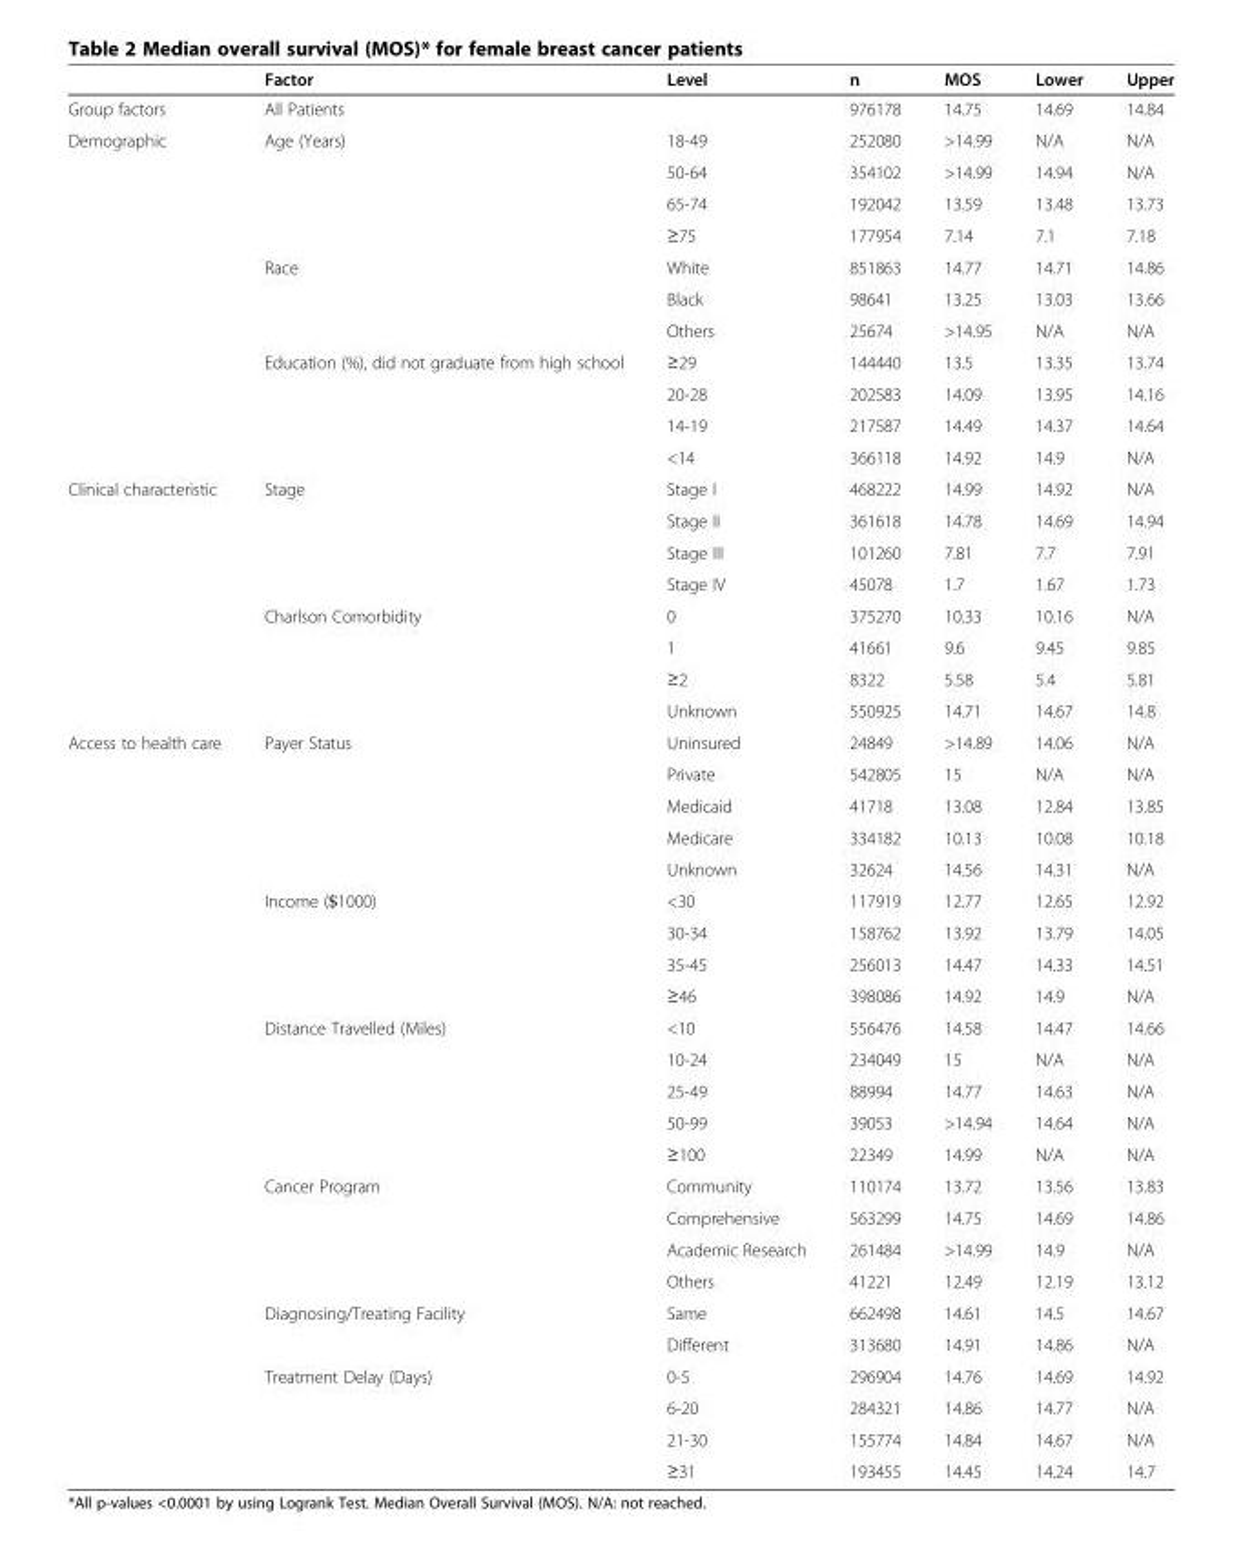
<table><thead><tr><td></td><td>Factor</td><td>Level</td><td>n</td><td>MOS</td><td>Lower</td><td>Upper</td></tr></thead><tbody><tr><td>Group factors</td><td>All Patients</td><td></td><td>976178</td><td>14.75</td><td>14.69</td><td>14.84</td></tr><tr><td rowspan="11">Demographic</td><td rowspan="4">Age (Years)</td><td>18-49</td><td>252080</td><td>&gt;14.99</td><td>N/A</td><td>N/A</td></tr><tr><td>50-64</td><td>354102</td><td>&gt;14.99</td><td>14.94</td><td>N/A</td></tr><tr><td>65-74</td><td>192042</td><td>13.59</td><td>13.48</td><td>13.73</td></tr><tr><td>≥75</td><td>177954</td><td>7.14</td><td>7.1</td><td>7.18</td></tr><tr><td rowspan="3">Race</td><td>White</td><td>851863</td><td>14.77</td><td>14.71</td><td>14.86</td></tr><tr><td>Black</td><td>98641</td><td>13.25</td><td>13.03</td><td>13.66</td></tr><tr><td>Others</td><td>25674</td><td>&gt;14.95</td><td>N/A</td><td>N/A</td></tr><tr><td rowspan="4">Education (%), did not graduate from high school</td><td>≥29</td><td>144440</td><td>13.5</td><td>13.35</td><td>13.74</td></tr><tr><td>20-28</td><td>202583</td><td>14.09</td><td>13.95</td><td>14.16</td></tr><tr><td>14-19</td><td>217587</td><td>14.49</td><td>14.37</td><td>14.64</td></tr><tr><td>&lt;14</td><td>366118</td><td>14.92</td><td>14.9</td><td>N/A</td></tr><tr><td rowspan="8">Clinical characteristic</td><td rowspan="4">Stage</td><td>Stage I</td><td>468222</td><td>14.99</td><td>14.92</td><td>N/A</td></tr><tr><td>Stage II</td><td>361618</td><td>14.78</td><td>14.69</td><td>14.94</td></tr><tr><td>Stage III</td><td>101260</td><td>7.81</td><td>7.7</td><td>7.91</td></tr><tr><td>Stage IV</td><td>45078</td><td>1.7</td><td>1.67</td><td>1.73</td></tr><tr><td rowspan="4">Charlson Comorbidity</td><td>0</td><td>375270</td><td>10.33</td><td>10.16</td><td>N/A</td></tr><tr><td>1</td><td>41661</td><td>9.6</td><td>9.45</td><td>9.85</td></tr><tr><td>≥2</td><td>8322</td><td>5.58</td><td>5.4</td><td>5.81</td></tr><tr><td>Unknown</td><td>550925</td><td>14.71</td><td>14.67</td><td>14.8</td></tr><tr><td rowspan="24">Access to health care</td><td rowspan="5">Payer Status</td><td>Uninsured</td><td>24849</td><td>&gt;14.89</td><td>14.06</td><td>N/A</td></tr><tr><td>Private</td><td>542805</td><td>15</td><td>N/A</td><td>N/A</td></tr><tr><td>Medicaid</td><td>41718</td><td>13.08</td><td>12.84</td><td>13.85</td></tr><tr><td>Medicare</td><td>334182</td><td>10.13</td><td>10.08</td><td>10.18</td></tr><tr><td>Unknown</td><td>32624</td><td>14.56</td><td>14.31</td><td>N/A</td></tr><tr><td rowspan="4">Income ($1000)</td><td>&lt;30</td><td>117919</td><td>12.77</td><td>12.65</td><td>12.92</td></tr><tr><td>30-34</td><td>158762</td><td>13.92</td><td>13.79</td><td>14.05</td></tr><tr><td>35-45</td><td>256013</td><td>14.47</td><td>14.33</td><td>14.51</td></tr><tr><td>≥46</td><td>398086</td><td>14.92</td><td>14.9</td><td>N/A</td></tr><tr><td rowspan="5">Distance Travelled (Miles)</td><td>&lt;10</td><td>556476</td><td>14.58</td><td>14.47</td><td>14.66</td></tr><tr><td>10-24</td><td>234049</td><td>15</td><td>N/A</td><td>N/A</td></tr><tr><td>25-49</td><td>88994</td><td>14.77</td><td>14.63</td><td>N/A</td></tr><tr><td>50-99</td><td>39053</td><td>&gt;14.94</td><td>14.64</td><td>N/A</td></tr><tr><td>≥100</td><td>22349</td><td>14.99</td><td>N/A</td><td>N/A</td></tr><tr><td rowspan="4">Cancer Program</td><td>Community</td><td>110174</td><td>13.72</td><td>13.56</td><td>13.83</td></tr><tr><td>Comprehensive</td><td>563299</td><td>14.75</td><td>14.69</td><td>14.86</td></tr><tr><td>Academic Research</td><td>261484</td><td>&gt;14.99</td><td>14.9</td><td>N/A</td></tr><tr><td>Others</td><td>41221</td><td>12.49</td><td>12.19</td><td>13.12</td></tr><tr><td rowspan="2">Diagnosing/Treating Facility</td><td>Same</td><td>662498</td><td>14.61</td><td>14.5</td><td>14.67</td></tr><tr><td>Different</td><td>313680</td><td>14.91</td><td>14.86</td><td>N/A</td></tr><tr><td rowspan="4">Treatment Delay (Days)</td><td>0-5</td><td>296904</td><td>14.76</td><td>14.69</td><td>14.92</td></tr><tr><td>6-20</td><td>284321</td><td>14.86</td><td>14.77</td><td>N/A</td></tr><tr><td>21-30</td><td>155774</td><td>14.84</td><td>14.67</td><td>N/A</td></tr><tr><td>≥31</td><td>193455</td><td>14.45</td><td>14.24</td><td>14.7</td></tr></tbody></table>